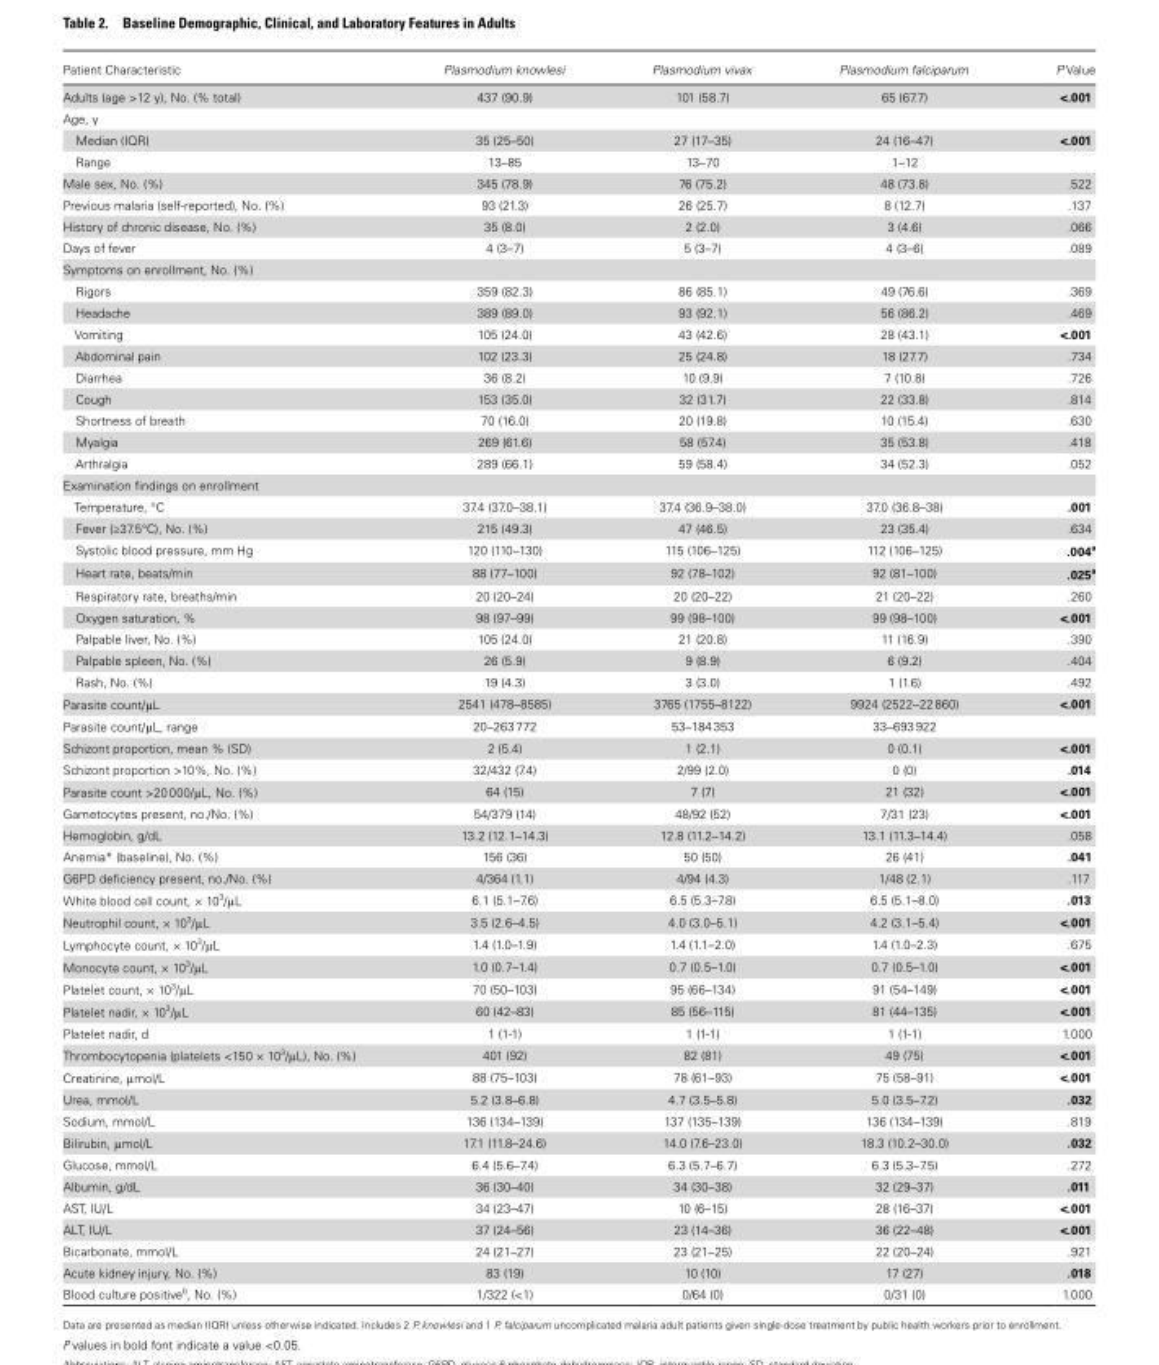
<table><thead><tr><td>Patient Characteristic</td><td>Plasmodium knowlesi</td><td>Plasmodium vivax</td><td>Plasmodium falciparum</td><td>P Value</td></tr></thead><tbody><tr><td>Adults (age &gt;12 y), No. (% total)</td><td>437 (90.9)</td><td>101 (58.7)</td><td>65 (67.7)</td><td>&lt;.001</td></tr><tr><td colspan="5">Age, y</td></tr><tr><td>Median (IQR)</td><td>35 (25–50)</td><td>27 (17–35)</td><td>24 (16–47)</td><td>&lt;.001</td></tr><tr><td>Range</td><td>13–85</td><td>13–70</td><td>1–12</td><td></td></tr><tr><td>Male sex, No. (%)</td><td>345 (78.9)</td><td>76 (75.2)</td><td>48 (73.8)</td><td>.522</td></tr><tr><td>Previous malaria (self-reported), No. (%)</td><td>93 (21.3)</td><td>26 (25.7)</td><td>8 (12.7)</td><td>.137</td></tr><tr><td>History of chronic disease, No. (%)</td><td>35 (8.0)</td><td>2 (2.0)</td><td>3 (4.6)</td><td>.066</td></tr><tr><td>Days of fever</td><td>4 (3–7)</td><td>5 (3–7)</td><td>4 (3–6)</td><td>.089</td></tr><tr><td colspan="5">Symptoms on enrollment, No. (%)</td></tr><tr><td>Rigors</td><td>359 (82.3)</td><td>86 (85.1)</td><td>49 (76.6)</td><td>.369</td></tr><tr><td>Headache</td><td>389 (89.0)</td><td>93 (92.1)</td><td>56 (86.2)</td><td>.469</td></tr><tr><td>Vomiting</td><td>105 (24.0)</td><td>43 (42.6)</td><td>28 (43.1)</td><td>&lt;.001</td></tr><tr><td>Abdominal pain</td><td>102 (23.3)</td><td>25 (24.8)</td><td>18 (27.7)</td><td>.734</td></tr><tr><td>Diarrhea</td><td>36 (8.2)</td><td>10 (9.9)</td><td>7 (10.8)</td><td>.726</td></tr><tr><td>Cough</td><td>153 (35.0)</td><td>32 (31.7)</td><td>22 (33.8)</td><td>.814</td></tr><tr><td>Shortness of breath</td><td>70 (16.0)</td><td>20 (19.8)</td><td>10 (15.4)</td><td>.630</td></tr><tr><td>Myalgia</td><td>269 (61.6)</td><td>58 (57.4)</td><td>35 (53.8)</td><td>.418</td></tr><tr><td>Arthralgia</td><td>289 (66.1)</td><td>59 (58.4)</td><td>34 (52.3)</td><td>.052</td></tr><tr><td colspan="5">Examination findings on enrollment</td></tr><tr><td>Temperature, °C</td><td>37.4 (37.0–38.1)</td><td>37.4 (36.9–38.0)</td><td>37.0 (36.8–38)</td><td>.001</td></tr><tr><td>Fever (≥37.5°C), No. (%)</td><td>215 (49.3)</td><td>47 (46.5)</td><td>23 (35.4)</td><td>.634</td></tr><tr><td>Systolic blood pressure, mm Hg</td><td>120 (110–130)</td><td>115 (106–125)</td><td>112 (106–125)</td><td>.004<sup>a</sup></td></tr><tr><td>Heart rate, beats/min</td><td>88 (77–100)</td><td>92 (78–102)</td><td>92 (81–100)</td><td>.025<sup>a</sup></td></tr><tr><td>Respiratory rate, breaths/min</td><td>20 (20–24)</td><td>20 (20–22)</td><td>21 (20–22)</td><td>.260</td></tr><tr><td>Oxygen saturation, %</td><td>98 (97–99)</td><td>99 (98–100)</td><td>99 (98–100)</td><td>&lt;.001</td></tr><tr><td>Palpable liver, No. (%)</td><td>105 (24.0)</td><td>21 (20.8)</td><td>11 (16.9)</td><td>.390</td></tr><tr><td>Palpable spleen, No. (%)</td><td>26 (5.9)</td><td>9 (8.9)</td><td>6 (9.2)</td><td>.404</td></tr><tr><td>Rash, No. (%)</td><td>19 (4.3)</td><td>3 (3.0)</td><td>1 (1.6)</td><td>.492</td></tr><tr><td>Parasite count/μL</td><td>2541 (478–8585)</td><td>3765 (1755–8122)</td><td>9924 (2522–22 860)</td><td>&lt;.001</td></tr><tr><td>Parasite count/μL, range</td><td>20–263 772</td><td>53–184 353</td><td>33–693 922</td><td></td></tr><tr><td>Schizont proportion, mean % (SD)</td><td>2 (5.4)</td><td>1 (2.1)</td><td>0 (0.1)</td><td>&lt;.001</td></tr><tr><td>Schizont proportion &gt;10%, No. (%)</td><td>32/432 (7.4)</td><td>2/99 (2.0)</td><td>0 (0)</td><td>.014</td></tr><tr><td>Parasite count &gt;20 000/μL, No. (%)</td><td>64 (15)</td><td>7 (7)</td><td>21 (32)</td><td>&lt;.001</td></tr><tr><td>Gametocytes present, no./No. (%)</td><td>54/379 (14)</td><td>48/92 (52)</td><td>7/31 (23)</td><td>&lt;.001</td></tr><tr><td>Hemoglobin, g/dL</td><td>13.2 (12.1–14.3)</td><td>12.8 (11.2–14.2)</td><td>13.1 (11.3–14.4)</td><td>.058</td></tr><tr><td>Anemia* (baseline), No. (%)</td><td>156 (36)</td><td>50 (50)</td><td>26 (41)</td><td>.041</td></tr><tr><td>G6PD deficiency present, no./No. (%)</td><td>4/364 (1.1)</td><td>4/94 (4.3)</td><td>1/48 (2.1)</td><td>.117</td></tr><tr><td>White blood cell count, × 10<sup>3</sup>/μL</td><td>6.1 (5.1–7.6)</td><td>6.5 (5.3–7.8)</td><td>6.5 (5.1–8.0)</td><td>.013</td></tr><tr><td>Neutrophil count, × 10<sup>3</sup>/μL</td><td>3.5 (2.6–4.5)</td><td>4.0 (3.0–5.1)</td><td>4.2 (3.1–5.4)</td><td>&lt;.001</td></tr><tr><td>Lymphocyte count, × 10<sup>3</sup>/μL</td><td>1.4 (1.0–1.9)</td><td>1.4 (1.1–2.0)</td><td>1.4 (1.0–2.3)</td><td>.675</td></tr><tr><td>Monocyte count, × 10<sup>3</sup>/μL</td><td>1.0 (0.7–1.4)</td><td>0.7 (0.5–1.0)</td><td>0.7 (0.5–1.0)</td><td>&lt;.001</td></tr><tr><td>Platelet count, × 10<sup>3</sup>/μL</td><td>70 (50–103)</td><td>95 (66–134)</td><td>91 (54–149)</td><td>&lt;.001</td></tr><tr><td>Platelet nadir, × 10<sup>3</sup>/μL</td><td>60 (42–83)</td><td>85 (56–115)</td><td>81 (44–135)</td><td>&lt;.001</td></tr><tr><td>Platelet nadir, d</td><td>1 (1-1)</td><td>1 (1-1)</td><td>1 (1-1)</td><td>1.000</td></tr><tr><td>Thrombocytopenia (platelets &lt;150 × 10<sup>3</sup>/μL), No. (%)</td><td>401 (92)</td><td>82 (81)</td><td>49 (75)</td><td>&lt;.001</td></tr><tr><td>Creatinine, μmol/L</td><td>88 (75–103)</td><td>78 (61–93)</td><td>75 (58–91)</td><td>&lt;.001</td></tr><tr><td>Urea, mmol/L</td><td>5.2 (3.8–6.8)</td><td>4.7 (3.5–5.8)</td><td>5.0 (3.5–7.2)</td><td>.032</td></tr><tr><td>Sodium, mmol/L</td><td>136 (134–139)</td><td>137 (135–139)</td><td>136 (134–139)</td><td>.819</td></tr><tr><td>Bilirubin, μmol/L</td><td>17.1 (11.8–24.6)</td><td>14.0 (7.6–23.0)</td><td>18.3 (10.2–30.0)</td><td>.032</td></tr><tr><td>Glucose, mmol/L</td><td>6.4 (5.6–7.4)</td><td>6.3 (5.7–6.7)</td><td>6.3 (5.3–7.5)</td><td>.272</td></tr><tr><td>Albumin, g/dL</td><td>36 (30–40)</td><td>34 (30–38)</td><td>32 (29–37)</td><td>.011</td></tr><tr><td>AST, IU/L</td><td>34 (23–47)</td><td>10 (6–15)</td><td>28 (16–37)</td><td>&lt;.001</td></tr><tr><td>ALT, IU/L</td><td>37 (24–56)</td><td>23 (14–36)</td><td>36 (22–48)</td><td>&lt;.001</td></tr><tr><td>Bicarbonate, mmol/L</td><td>24 (21–27)</td><td>23 (21–25)</td><td>22 (20–24)</td><td>.921</td></tr><tr><td>Acute kidney injury, No. (%)</td><td>83 (19)</td><td>10 (10)</td><td>17 (27)</td><td>.018</td></tr><tr><td>Blood culture positive<sup>b</sup>, No. (%)</td><td>1/322 (&lt;1)</td><td>0/64 (0)</td><td>0/31 (0)</td><td>1.000</td></tr></tbody></table>